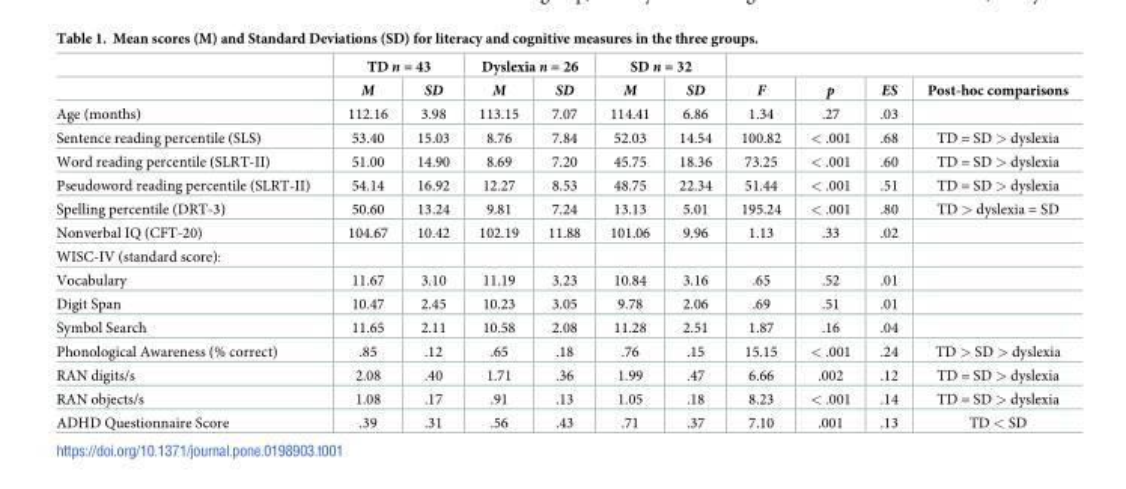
<table><thead><tr><td rowspan="2"></td><td colspan="2">TD n = 43</td><td colspan="2">Dyslexia n = 26</td><td colspan="2">SD n = 32</td><td rowspan="2">F</td><td rowspan="2">p</td><td rowspan="2">ES</td><td rowspan="2">Post-hoc comparisons</td></tr><tr><td>M</td><td>SD</td><td>M</td><td>SD</td><td>M</td><td>SD</td></tr></thead><tbody><tr><td>Age (months)</td><td>112.16</td><td>3.98</td><td>113.15</td><td>7.07</td><td>114.41</td><td>6.86</td><td>1.34</td><td>.27</td><td>.03</td><td></td></tr><tr><td>Sentence reading percentile (SLS)</td><td>53.40</td><td>15.03</td><td>8.76</td><td>7.84</td><td>52.03</td><td>14.54</td><td>100.82</td><td>&lt; .001</td><td>.68</td><td>TD = SD &gt; dyslexia</td></tr><tr><td>Word reading percentile (SLRT-II)</td><td>51.00</td><td>14.90</td><td>8.69</td><td>7.20</td><td>45.75</td><td>18.36</td><td>73.25</td><td>&lt; .001</td><td>.60</td><td>TD = SD &gt; dyslexia</td></tr><tr><td>Pseudoword reading percentile (SLRT-II)</td><td>54.14</td><td>16.92</td><td>12.27</td><td>8.53</td><td>48.75</td><td>22.34</td><td>51.44</td><td>&lt; .001</td><td>.51</td><td>TD = SD &gt; dyslexia</td></tr><tr><td>Spelling percentile (DRT-3)</td><td>50.60</td><td>13.24</td><td>9.81</td><td>7.24</td><td>13.13</td><td>5.01</td><td>195.24</td><td>&lt; .001</td><td>.80</td><td>TD &gt; dyslexia = SD</td></tr><tr><td>Nonverbal IQ (CFT-20)</td><td>104.67</td><td>10.42</td><td>102.19</td><td>11.88</td><td>101.06</td><td>9.96</td><td>1.13</td><td>.33</td><td>.02</td><td></td></tr><tr><td colspan="11">WISC-IV (standard score):</td></tr><tr><td>Vocabulary</td><td>11.67</td><td>3.10</td><td>11.19</td><td>3.23</td><td>10.84</td><td>3.16</td><td>.65</td><td>.52</td><td>.01</td><td></td></tr><tr><td>Digit Span</td><td>10.47</td><td>2.45</td><td>10.23</td><td>3.05</td><td>9.78</td><td>2.06</td><td>.69</td><td>.51</td><td>.01</td><td></td></tr><tr><td>Symbol Search</td><td>11.65</td><td>2.11</td><td>10.58</td><td>2.08</td><td>11.28</td><td>2.51</td><td>1.87</td><td>.16</td><td>.04</td><td></td></tr><tr><td>Phonological Awareness (% correct)</td><td>.85</td><td>.12</td><td>.65</td><td>.18</td><td>.76</td><td>.15</td><td>15.15</td><td>&lt; .001</td><td>.24</td><td>TD &gt; SD &gt; dyslexia</td></tr><tr><td>RAN digits/s</td><td>2.08</td><td>.40</td><td>1.71</td><td>.36</td><td>1.99</td><td>.47</td><td>6.66</td><td>.002</td><td>.12</td><td>TD = SD &gt; dyslexia</td></tr><tr><td>RAN objects/s</td><td>1.08</td><td>.17</td><td>.91</td><td>.13</td><td>1.05</td><td>.18</td><td>8.23</td><td>&lt; .001</td><td>.14</td><td>TD = SD &gt; dyslexia</td></tr><tr><td>ADHD Questionnaire Score</td><td>.39</td><td>.31</td><td>.56</td><td>.43</td><td>.71</td><td>.37</td><td>7.10</td><td>.001</td><td>.13</td><td>TD &lt; SD</td></tr></tbody></table>